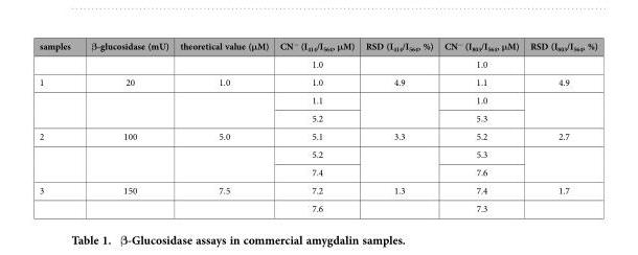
<table><thead><tr><td>samples</td><td>β-glucosidase (mU)</td><td>theoretical value (μM)</td><td>CN<sup>−</sup> (I<sub>414</sub>/I<sub>564</sub>, μM)</td><td>RSD (I<sub>414</sub>/I<sub>564</sub>, %)</td><td>CN<sup>−</sup> (I<sub>803</sub>/I<sub>564</sub>, μM)</td><td>RSD (I<sub>803</sub>/I<sub>564</sub>, %)</td></tr></thead><tbody><tr><td></td><td></td><td></td><td>1.0</td><td></td><td>1.0</td><td></td></tr><tr><td rowspan="3">1</td><td>20</td><td>1.0</td><td>1.0</td><td>4.9</td><td>1.1</td><td>4.9</td></tr><tr><td rowspan="2"></td><td rowspan="2"></td><td>1.1</td><td rowspan="2"></td><td>1.0</td><td rowspan="2"></td></tr><tr><td>5.2</td><td>5.3</td></tr><tr><td rowspan="3">2</td><td>100</td><td>5.0</td><td>5.1</td><td>3.3</td><td>5.2</td><td>2.7</td></tr><tr><td rowspan="2"></td><td rowspan="2"></td><td>5.2</td><td rowspan="2"></td><td>5.3</td><td rowspan="2"></td></tr><tr><td>7.4</td><td>7.6</td></tr><tr><td rowspan="2">3</td><td>150</td><td>7.5</td><td>7.2</td><td>1.3</td><td>7.4</td><td>1.7</td></tr><tr><td></td><td></td><td>7.6</td><td></td><td>7.3</td><td></td></tr></tbody></table>